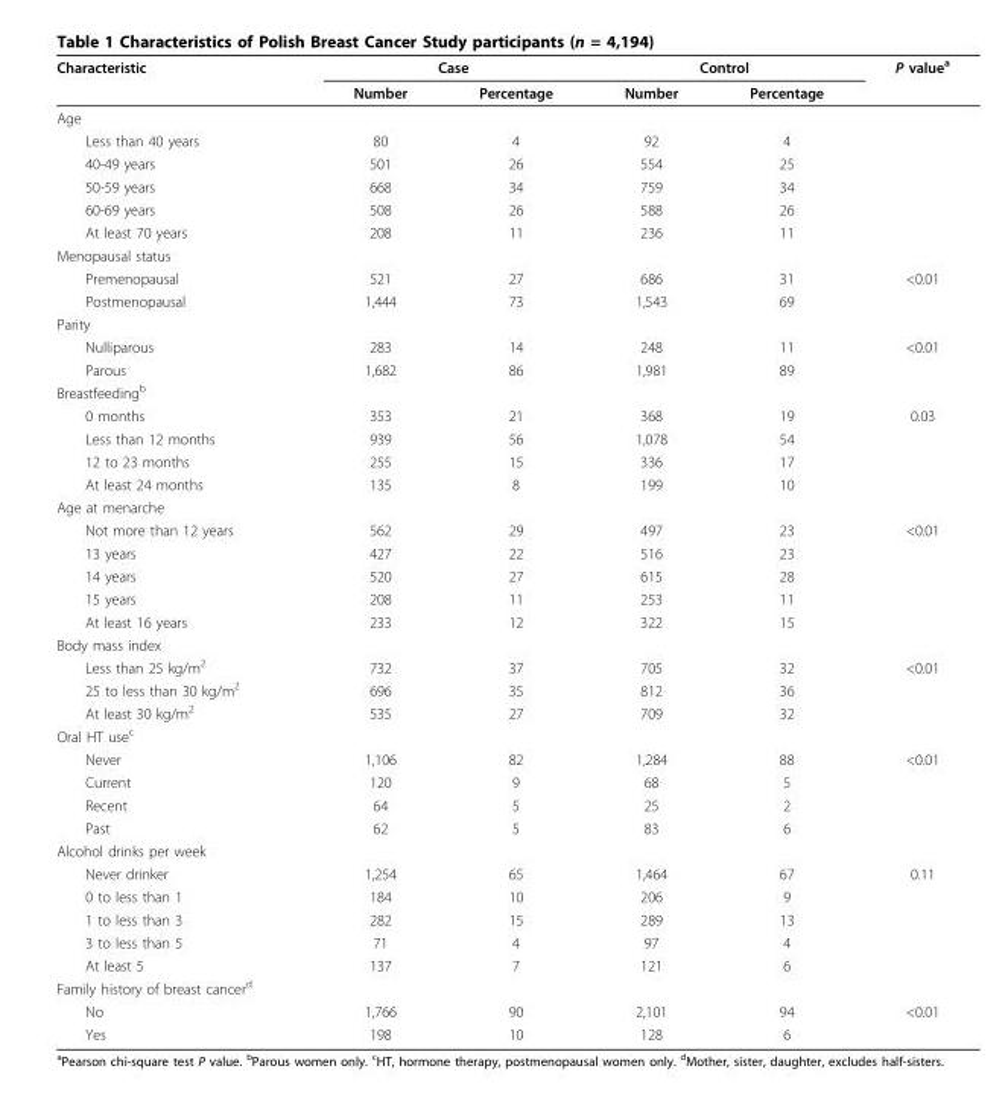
<table><thead><tr><td rowspan="2">Characteristic</td><td colspan="2">Case</td><td colspan="2">Control</td><td rowspan="2">P value<sup>a</sup></td></tr><tr><td>Number</td><td>Percentage</td><td>Number</td><td>Percentage</td></tr></thead><tbody><tr><td colspan="6">Age</td></tr><tr><td>Less than 40 years</td><td>80</td><td>4</td><td>92</td><td>4</td><td></td></tr><tr><td>40-49 years</td><td>501</td><td>26</td><td>554</td><td>25</td><td></td></tr><tr><td>50-59 years</td><td>668</td><td>34</td><td>759</td><td>34</td><td></td></tr><tr><td>60-69 years</td><td>508</td><td>26</td><td>588</td><td>26</td><td></td></tr><tr><td>At least 70 years</td><td>208</td><td>11</td><td>236</td><td>11</td><td></td></tr><tr><td colspan="6">Menopausal status</td></tr><tr><td>Premenopausal</td><td>521</td><td>27</td><td>686</td><td>31</td><td>&lt;0.01</td></tr><tr><td>Postmenopausal</td><td>1,444</td><td>73</td><td>1,543</td><td>69</td><td></td></tr><tr><td colspan="6">Parity</td></tr><tr><td>Nulliparous</td><td>283</td><td>14</td><td>248</td><td>11</td><td>&lt;0.01</td></tr><tr><td>Parous</td><td>1,682</td><td>86</td><td>1,981</td><td>89</td><td></td></tr><tr><td colspan="6">Breastfeeding<sup>b</sup></td></tr><tr><td>0 months</td><td>353</td><td>21</td><td>368</td><td>19</td><td>0.03</td></tr><tr><td>Less than 12 months</td><td>939</td><td>56</td><td>1,078</td><td>54</td><td></td></tr><tr><td>12 to 23 months</td><td>255</td><td>15</td><td>336</td><td>17</td><td></td></tr><tr><td>At least 24 months</td><td>135</td><td>8</td><td>199</td><td>10</td><td></td></tr><tr><td colspan="6">Age at menarche</td></tr><tr><td>Not more than 12 years</td><td>562</td><td>29</td><td>497</td><td>23</td><td>&lt;0.01</td></tr><tr><td>13 years</td><td>427</td><td>22</td><td>516</td><td>23</td><td></td></tr><tr><td>14 years</td><td>520</td><td>27</td><td>615</td><td>28</td><td></td></tr><tr><td>15 years</td><td>208</td><td>11</td><td>253</td><td>11</td><td></td></tr><tr><td>At least 16 years</td><td>233</td><td>12</td><td>322</td><td>15</td><td></td></tr><tr><td colspan="6">Body mass index</td></tr><tr><td>Less than 25 kg/m<sup>2</sup></td><td>732</td><td>37</td><td>705</td><td>32</td><td>&lt;0.01</td></tr><tr><td>25 to less than 30 kg/m<sup>2</sup></td><td>696</td><td>35</td><td>812</td><td>36</td><td></td></tr><tr><td>At least 30 kg/m<sup>2</sup></td><td>535</td><td>27</td><td>709</td><td>32</td><td></td></tr><tr><td colspan="6">Oral HT use<sup>c</sup></td></tr><tr><td>Never</td><td>1,106</td><td>82</td><td>1,284</td><td>88</td><td>&lt;0.01</td></tr><tr><td>Current</td><td>120</td><td>9</td><td>68</td><td>5</td><td></td></tr><tr><td>Recent</td><td>64</td><td>5</td><td>25</td><td>2</td><td></td></tr><tr><td>Past</td><td>62</td><td>5</td><td>83</td><td>6</td><td></td></tr><tr><td colspan="6">Alcohol drinks per week</td></tr><tr><td>Never drinker</td><td>1,254</td><td>65</td><td>1,464</td><td>67</td><td>0.11</td></tr><tr><td>0 to less than 1</td><td>184</td><td>10</td><td>206</td><td>9</td><td></td></tr><tr><td>1 to less than 3</td><td>282</td><td>15</td><td>289</td><td>13</td><td></td></tr><tr><td>3 to less than 5</td><td>71</td><td>4</td><td>97</td><td>4</td><td></td></tr><tr><td>At least 5</td><td>137</td><td>7</td><td>121</td><td>6</td><td></td></tr><tr><td colspan="6">Family history of breast cancer<sup>d</sup></td></tr><tr><td>No</td><td>1,766</td><td>90</td><td>2,101</td><td>94</td><td>&lt;0.01</td></tr><tr><td>Yes</td><td>198</td><td>10</td><td>128</td><td>6</td><td></td></tr></tbody></table>